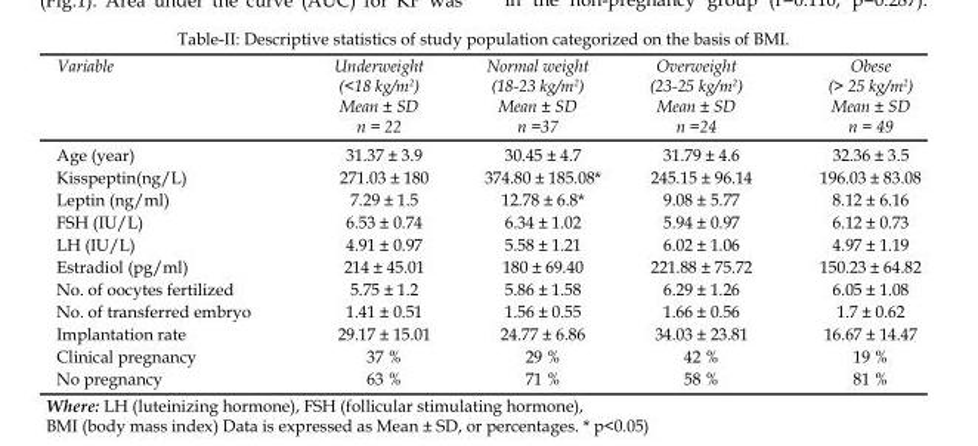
<table><thead><tr><td>Variable</td><td>Underweight (&lt;18 kg/m<sup>2</sup>) Mean ± SD n = 22</td><td>Normal weight (18-23 kg/m<sup>2</sup>) Mean ± SD n =37</td><td>Overweight (23-25 kg/m<sup>2</sup>) Mean ± SD n =24</td><td>Obese (&gt; 25 kg/m<sup>2</sup>) Mean ± SD n = 49</td></tr></thead><tbody><tr><td>Age (year)</td><td>31.37 ± 3.9</td><td>30.45 ± 4.7</td><td>31.79 ± 4.6</td><td>32.36 ± 3.5</td></tr><tr><td>Kisspeptin(ng/L)</td><td>271.03 ± 180</td><td>374.80 ± 185.08*</td><td>245.15 ± 96.14</td><td>196.03 ± 83.08</td></tr><tr><td>Leptin (ng/ml)</td><td>7.29 ± 1.5</td><td>12.78 ± 6.8*</td><td>9.08 ± 5.77</td><td>8.12 ± 6.16</td></tr><tr><td>FSH (IU/L)</td><td>6.53 ± 0.74</td><td>6.34 ± 1.02</td><td>5.94 ± 0.97</td><td>6.12 ± 0.73</td></tr><tr><td>LH (IU/L)</td><td>4.91 ± 0.97</td><td>5.58 ± 1.21</td><td>6.02 ± 1.06</td><td>4.97 ± 1.19</td></tr><tr><td>Estradiol (pg/ml)</td><td>214 ± 45.01</td><td>180 ± 69.40</td><td>221.88 ± 75.72</td><td>150.23 ± 64.82</td></tr><tr><td>No. of oocytes fertilized</td><td>5.75 ± 1.2</td><td>5.86 ± 1.58</td><td>6.29 ± 1.26</td><td>6.05 ± 1.08</td></tr><tr><td>No. of transferred embryo</td><td>1.41 ± 0.51</td><td>1.56 ± 0.55</td><td>1.66 ± 0.56</td><td>1.7 ± 0.62</td></tr><tr><td>Implantation rate</td><td>29.17 ± 15.01</td><td>24.77 ± 6.86</td><td>34.03 ± 23.81</td><td>16.67 ± 14.47</td></tr><tr><td>Clinical pregnancy</td><td>37 %</td><td>29 %</td><td>42 %</td><td>19 %</td></tr><tr><td>No pregnancy</td><td>63 %</td><td>71 %</td><td>58 %</td><td>81 %</td></tr></tbody></table>